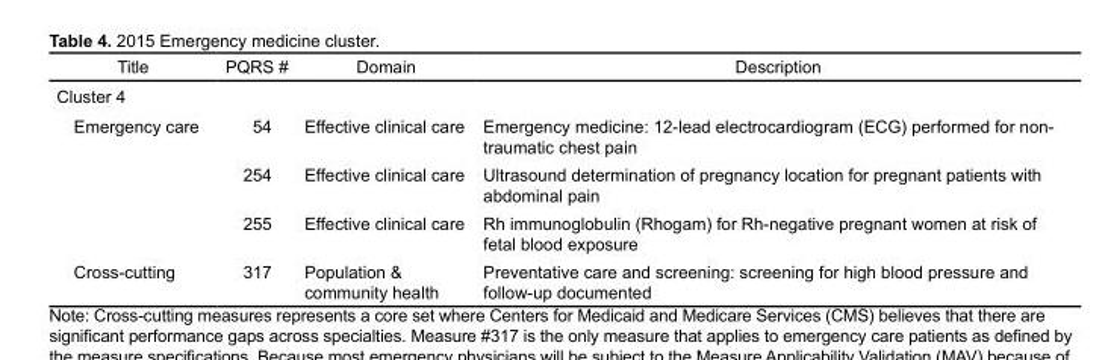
<table><thead><tr><td>Title</td><td>PQRS #</td><td>Domain</td><td>Description</td></tr></thead><tbody><tr><td colspan="4">Cluster 4</td></tr><tr><td rowspan="3">Emergency care</td><td>54</td><td>Effective clinical care</td><td>Emergency medicine: 12-lead electrocardiogram (ECG) performed for non- traumatic chest pain</td></tr><tr><td>254</td><td>Effective clinical care</td><td>Ultrasound determination of pregnancy location for pregnant patients with abdominal pain</td></tr><tr><td>255</td><td>Effective clinical care</td><td>Rh immunoglobulin (Rhogam) for Rh-negative pregnant women at risk of fetal blood exposure</td></tr><tr><td>Cross-cutting</td><td>317</td><td>Population &amp; community health</td><td>Preventative care and screening: screening for high blood pressure and follow-up documented</td></tr></tbody></table>